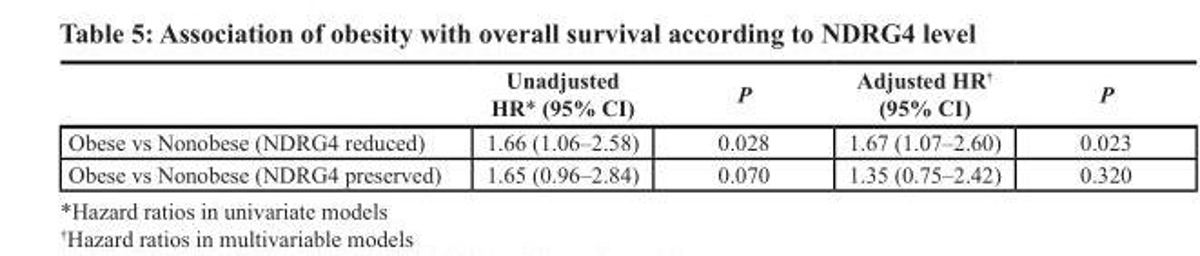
<table><thead><tr><td></td><td>Unadjusted HR* (95% CI)</td><td>P</td><td>Adjusted HR<sup>†</sup> (95% CI)</td><td>P</td></tr></thead><tbody><tr><td>Obese vs Nonobese (NDRG4 reduced)</td><td>1.66 (1.06–2.58)</td><td>0.028</td><td>1.67 (1.07–2.60)</td><td>0.023</td></tr><tr><td>Obese vs Nonobese (NDRG4 preserved)</td><td>1.65 (0.96–2.84)</td><td>0.070</td><td>1.35 (0.75–2.42)</td><td>0.320</td></tr></tbody></table>